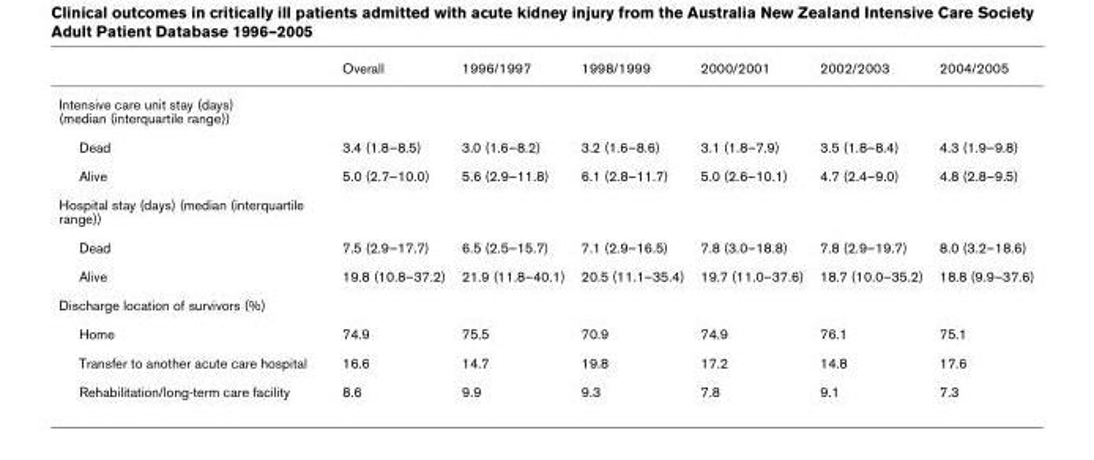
<table><thead><tr><td></td><td>Overall</td><td>1996/1997</td><td>1998/1999</td><td>2000/2001</td><td>2002/2003</td><td>2004/2005</td></tr></thead><tbody><tr><td colspan="7">Intensive care unit stay (days) (median (interquartile range))</td></tr><tr><td>Dead</td><td>3.4 (1.8–8.5)</td><td>3.0 (1.6–8.2)</td><td>3.2 (1.6–8.6)</td><td>3.1 (1.8–7.9)</td><td>3.5 (1.8–8.4)</td><td>4.3 (1.9–9.8)</td></tr><tr><td>Alive</td><td>5.0 (2.7–10.0)</td><td>5.6 (2.9–11.8)</td><td>6.1 (2.8–11.7)</td><td>5.0 (2.6–10.1)</td><td>4.7 (2.4–9.0)</td><td>4.8 (2.8–9.5)</td></tr><tr><td colspan="7">Hospital stay (days) (median (interquartile range))</td></tr><tr><td>Dead</td><td>7.5 (2.9–17.7)</td><td>6.5 (2.5–15.7)</td><td>7.1 (2.9–16.5)</td><td>7.8 (3.0–18.8)</td><td>7.8 (2.9–19.7)</td><td>8.0 (3.2–18.6)</td></tr><tr><td>Alive</td><td>19.8 (10.8–37.2)</td><td>21.9 (11.8–40.1)</td><td>20.5 (11.1–35.4)</td><td>19.7 (11.0–37.6)</td><td>18.7 (10.0–35.2)</td><td>18.8 (9.9–37.6)</td></tr><tr><td colspan="7">Discharge location of survivors (%)</td></tr><tr><td>Home</td><td>74.9</td><td>75.5</td><td>70.9</td><td>74.9</td><td>76.1</td><td>75.1</td></tr><tr><td>Transfer to another acute care hospital</td><td>16.6</td><td>14.7</td><td>19.8</td><td>17.2</td><td>14.8</td><td>17.6</td></tr><tr><td>Rehabilitation/long-term care facility</td><td>8.6</td><td>9.9</td><td>9.3</td><td>7.8</td><td>9.1</td><td>7.3</td></tr></tbody></table>